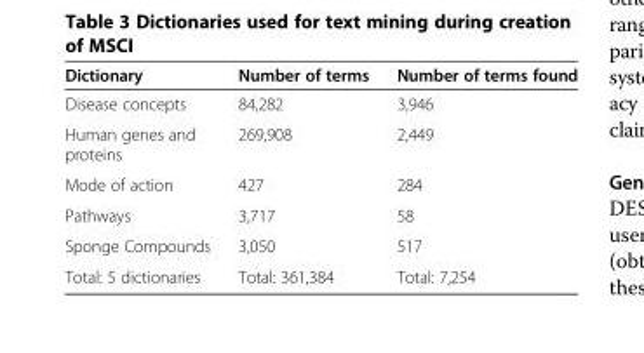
<table><thead><tr><td>Dictionary</td><td>Number of terms</td><td>Number of terms found</td></tr></thead><tbody><tr><td>Disease concepts</td><td>84,282</td><td>3,946</td></tr><tr><td>Human genes and proteins</td><td>269,908</td><td>2,449</td></tr><tr><td>Mode of action</td><td>427</td><td>284</td></tr><tr><td>Pathways</td><td>3,717</td><td>58</td></tr><tr><td>Sponge Compounds</td><td>3,050</td><td>517</td></tr><tr><td>Total: 5 dictionaries</td><td>Total: 361,384</td><td>Total: 7,254</td></tr></tbody></table>